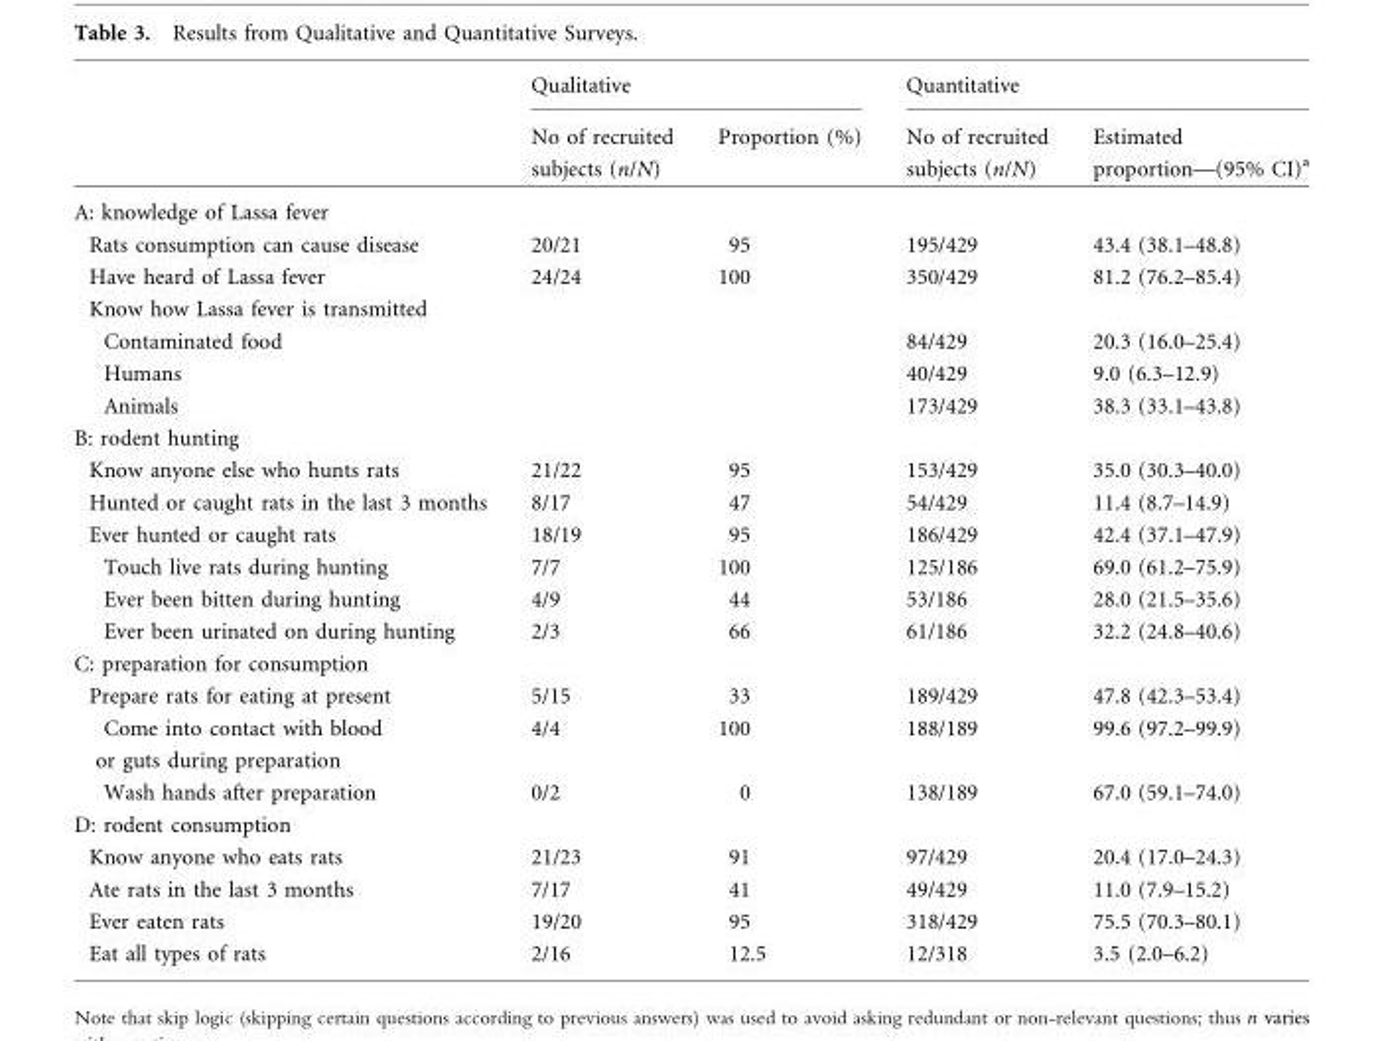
<table><thead><tr><td rowspan="2"></td><td colspan="2">Qualitative</td><td colspan="2">Quantitative</td></tr><tr><td>No of recruited subjects (n/N)</td><td>Proportion (%)</td><td>No of recruited subjects (n/N)</td><td>Estimated proportion—(95% CI)<sup>a</sup></td></tr></thead><tbody><tr><td colspan="5">A: knowledge of Lassa fever</td></tr><tr><td>Rats consumption can cause disease</td><td>20/21</td><td>95</td><td>195/429</td><td>43.4 (38.1–48.8)</td></tr><tr><td>Have heard of Lassa fever</td><td>24/24</td><td>100</td><td>350/429</td><td>81.2 (76.2–85.4)</td></tr><tr><td colspan="5">Know how Lassa fever is transmitted</td></tr><tr><td>Contaminated food</td><td></td><td></td><td>84/429</td><td>20.3 (16.0–25.4)</td></tr><tr><td>Humans</td><td></td><td></td><td>40/429</td><td>9.0 (6.3–12.9)</td></tr><tr><td>Animals</td><td></td><td></td><td>173/429</td><td>38.3 (33.1–43.8)</td></tr><tr><td colspan="5">B: rodent hunting</td></tr><tr><td>Know anyone else who hunts rats</td><td>21/22</td><td>95</td><td>153/429</td><td>35.0 (30.3–40.0)</td></tr><tr><td>Hunted or caught rats in the last 3 months</td><td>8/17</td><td>47</td><td>54/429</td><td>11.4 (8.7–14.9)</td></tr><tr><td>Ever hunted or caught rats</td><td>18/19</td><td>95</td><td>186/429</td><td>42.4 (37.1–47.9)</td></tr><tr><td>Touch live rats during hunting</td><td>7/7</td><td>100</td><td>125/186</td><td>69.0 (61.2–75.9)</td></tr><tr><td>Ever been bitten during hunting</td><td>4/9</td><td>44</td><td>53/186</td><td>28.0 (21.5–35.6)</td></tr><tr><td>Ever been urinated on during hunting</td><td>2/3</td><td>66</td><td>61/186</td><td>32.2 (24.8–40.6)</td></tr><tr><td colspan="5">C: preparation for consumption</td></tr><tr><td>Prepare rats for eating at present</td><td>5/15</td><td>33</td><td>189/429</td><td>47.8 (42.3–53.4)</td></tr><tr><td>Come into contact with blood or guts during preparation</td><td>4/4</td><td>100</td><td>188/189</td><td>99.6 (97.2–99.9)</td></tr><tr><td>Wash hands after preparation</td><td>0/2</td><td>0</td><td>138/189</td><td>67.0 (59.1–74.0)</td></tr><tr><td colspan="5">D: rodent consumption</td></tr><tr><td>Know anyone who eats rats</td><td>21/23</td><td>91</td><td>97/429</td><td>20.4 (17.0–24.3)</td></tr><tr><td>Ate rats in the last 3 months</td><td>7/17</td><td>41</td><td>49/429</td><td>11.0 (7.9–15.2)</td></tr><tr><td>Ever eaten rats</td><td>19/20</td><td>95</td><td>318/429</td><td>75.5 (70.3–80.1)</td></tr><tr><td>Eat all types of rats</td><td>2/16</td><td>12.5</td><td>12/318</td><td>3.5 (2.0–6.2)</td></tr></tbody></table>